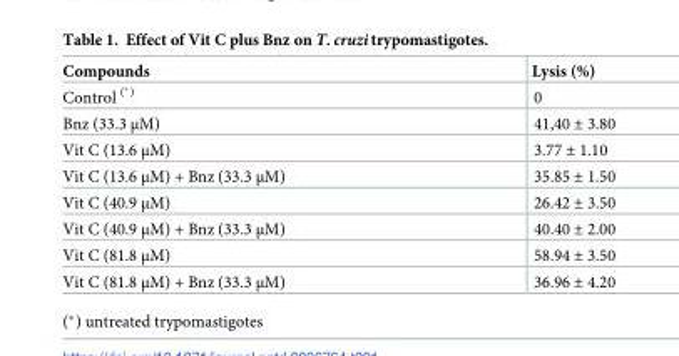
<table><thead><tr><td>Compounds</td><td>Lysis (%)</td></tr></thead><tbody><tr><td>Control <sup>(*)</sup></td><td>0</td></tr><tr><td>Bnz (33.3 μM)</td><td>41,40 ± 3.80</td></tr><tr><td>Vit C (13.6 μM)</td><td>3.77 ± 1.10</td></tr><tr><td>Vit C (13.6 μM) + Bnz (33.3 μM)</td><td>35.85 ± 1.50</td></tr><tr><td>Vit C (40.9 μM)</td><td>26.42 ± 3.50</td></tr><tr><td>Vit C (40.9 μM) + Bnz (33.3 μM)</td><td>40.40 ± 2.00</td></tr><tr><td>Vit C (81.8 μM)</td><td>58.94 ± 3.50</td></tr><tr><td>Vit C (81.8 μM) + Bnz (33.3 μM)</td><td>36.96 ± 4.20</td></tr></tbody></table>